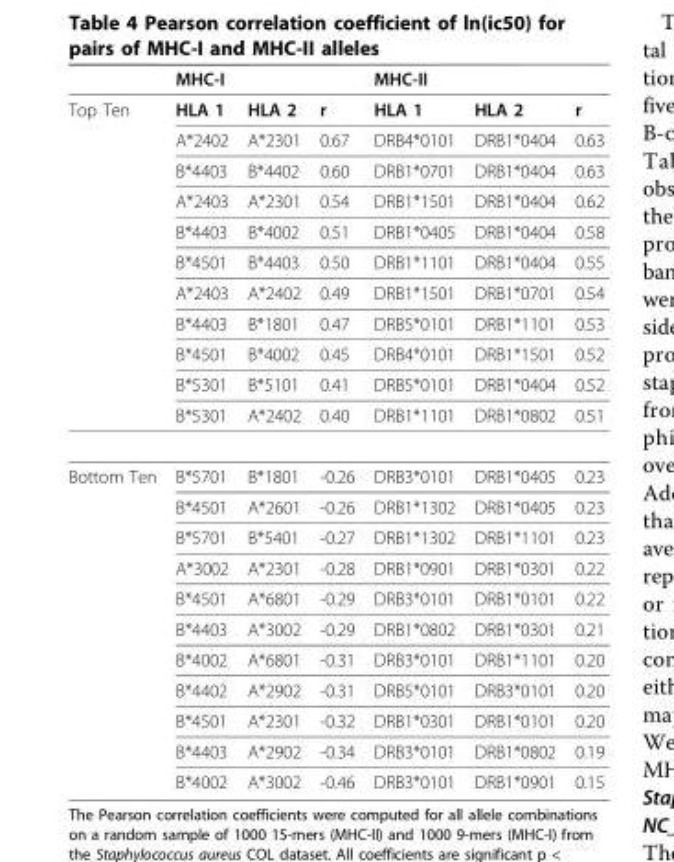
<table><thead><tr><td></td><td>MHC-I</td><td></td><td></td><td>MHC-II</td><td></td><td></td></tr></thead><tbody><tr><td rowspan="11">Top Ten</td><td>HLA 1</td><td>HLA 2</td><td>r</td><td>HLA 1</td><td>HLA 2</td><td>r</td></tr><tr><td>A*2402</td><td>A*2301</td><td>0.67</td><td>DRB4*0101</td><td>DRB1*0404</td><td>0.63</td></tr><tr><td>B*4403</td><td>B*4402</td><td>0.60</td><td>DRB1*0701</td><td>DRB1*0404</td><td>0.63</td></tr><tr><td>A*2403</td><td>A*2301</td><td>0.54</td><td>DRB1*1501</td><td>DRB1*0404</td><td>0.62</td></tr><tr><td>B*4403</td><td>B*4002</td><td>0.51</td><td>DRB1*0405</td><td>DRB1*0404</td><td>0.58</td></tr><tr><td>B*4501</td><td>B*4403</td><td>0.50</td><td>DRB1*1101</td><td>DRB1*0404</td><td>0.55</td></tr><tr><td>A*2403</td><td>A*2402</td><td>0.49</td><td>DRB1*1501</td><td>DRB1*0701</td><td>0.54</td></tr><tr><td>B*4403</td><td>B*1801</td><td>0.47</td><td>DRB5*0101</td><td>DRB1*1101</td><td>0.53</td></tr><tr><td>B*4501</td><td>B*4002</td><td>0.45</td><td>DRB4*0101</td><td>DRB1*1501</td><td>0.52</td></tr><tr><td>B*5301</td><td>B*5101</td><td>0.41</td><td>DRB5*0101</td><td>DRB1*0404</td><td>0.52</td></tr><tr><td>B*5301</td><td>A*2402</td><td>0.40</td><td>DRB1*1101</td><td>DRB1*0802</td><td>0.51</td></tr><tr><td rowspan="11">Bottom Ten</td><td>B*5701</td><td>B*1801</td><td>-0.26</td><td>DRB3*0101</td><td>DRB1*0405</td><td>0.23</td></tr><tr><td>B*4501</td><td>A*2601</td><td>-0.26</td><td>DRB1*1302</td><td>DRB1*0405</td><td>0.23</td></tr><tr><td>B*5701</td><td>B*5401</td><td>-0.27</td><td>DRB1*1302</td><td>DRB1*1101</td><td>0.23</td></tr><tr><td>A*3002</td><td>A*2301</td><td>-0.28</td><td>DRB1*0901</td><td>DRB1*0301</td><td>0.22</td></tr><tr><td>B*4501</td><td>A*6801</td><td>-0.29</td><td>DRB3*0101</td><td>DRB1*0101</td><td>0.22</td></tr><tr><td>B*4403</td><td>A*3002</td><td>-0.29</td><td>DRB1*0802</td><td>DRB1*0301</td><td>0.21</td></tr><tr><td>B*4002</td><td>A*6801</td><td>-0.31</td><td>DRB3*0101</td><td>DRB1*1101</td><td>0.20</td></tr><tr><td>B*4402</td><td>A*2902</td><td>-0.31</td><td>DRB5*0101</td><td>DRB3*0101</td><td>0.20</td></tr><tr><td>B*4501</td><td>A*2301</td><td>-0.32</td><td>DRB1*0301</td><td>DRB1*0101</td><td>0.20</td></tr><tr><td>B*4403</td><td>A*2902</td><td>-0.34</td><td>DRB3*0101</td><td>DRB1*0802</td><td>0.19</td></tr><tr><td>B*4002</td><td>A*3002</td><td>-0.46</td><td>DRB3*0101</td><td>DRB1*0901</td><td>0.15</td></tr></tbody></table>